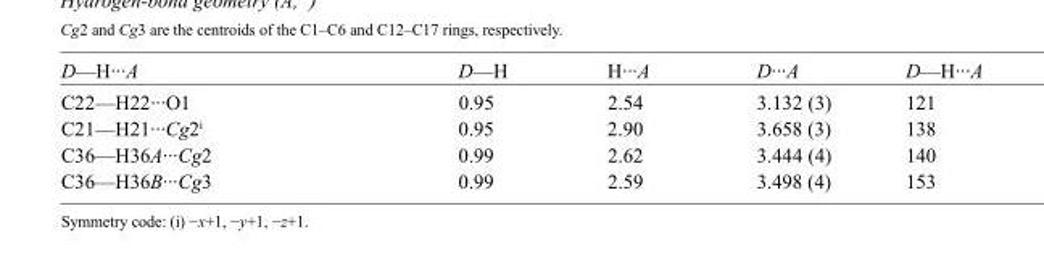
<table><tbody><tr><td>D—H···A</td><td>D—H</td><td>H···A</td><td>D···A</td><td>D—H···A</td></tr><tr><td>C22—H22···O1</td><td>0.95</td><td>2.54</td><td>3.132 (3)</td><td>121</td></tr><tr><td>C21—H21···Cg2<sup>i</sup></td><td>0.95</td><td>2.90</td><td>3.658 (3)</td><td>138</td></tr><tr><td>C36—H36A···Cg2</td><td>0.99</td><td>2.62</td><td>3.444 (4)</td><td>140</td></tr><tr><td>C36—H36B···Cg3</td><td>0.99</td><td>2.59</td><td>3.498 (4)</td><td>153</td></tr></tbody></table>